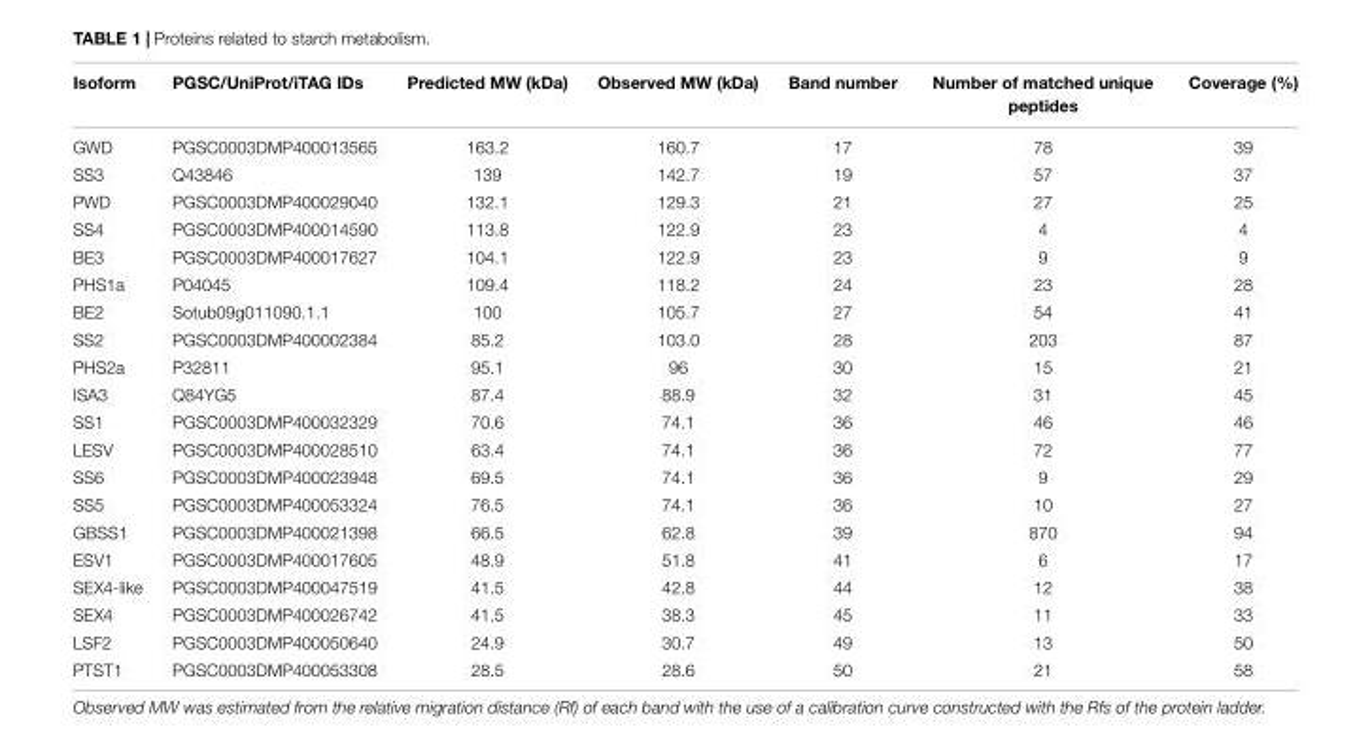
<table><thead><tr><td>Isoform</td><td>PGSC/UniProt/iTAG IDs</td><td>Predicted MW (kDa)</td><td>Observed MW (kDa)</td><td>Band number</td><td>Number of matched unique peptides</td><td>Coverage (%)</td></tr></thead><tbody><tr><td>GWD</td><td>PGSC0003DMP400013565</td><td>163.2</td><td>160.7</td><td>17</td><td>78</td><td>39</td></tr><tr><td>SS3</td><td>Q43846</td><td>139</td><td>142.7</td><td>19</td><td>57</td><td>37</td></tr><tr><td>PWD</td><td>PGSC0003DMP400029040</td><td>132.1</td><td>129.3</td><td>21</td><td>27</td><td>25</td></tr><tr><td>SS4</td><td>PGSC0003DMP400014590</td><td>113.8</td><td>122.9</td><td>23</td><td>4</td><td>4</td></tr><tr><td>BE3</td><td>PGSC0003DMP400017627</td><td>104.1</td><td>122.9</td><td>23</td><td>9</td><td>9</td></tr><tr><td>PHS1a</td><td>P04045</td><td>109.4</td><td>118.2</td><td>24</td><td>23</td><td>28</td></tr><tr><td>BE2</td><td>Sotub09g011090.1.1</td><td>100</td><td>105.7</td><td>27</td><td>54</td><td>41</td></tr><tr><td>SS2</td><td>PGSC0003DMP400002384</td><td>85.2</td><td>103.0</td><td>28</td><td>203</td><td>87</td></tr><tr><td>PHS2a</td><td>P32811</td><td>95.1</td><td>96</td><td>30</td><td>15</td><td>21</td></tr><tr><td>ISA3</td><td>Q84YG5</td><td>87.4</td><td>88.9</td><td>32</td><td>31</td><td>45</td></tr><tr><td>SS1</td><td>PGSC0003DMP400032329</td><td>70.6</td><td>74.1</td><td>36</td><td>46</td><td>46</td></tr><tr><td>LESV</td><td>PGSC0003DMP400028510</td><td>63.4</td><td>74.1</td><td>36</td><td>72</td><td>77</td></tr><tr><td>SS6</td><td>PGSC0003DMP400023948</td><td>69.5</td><td>74.1</td><td>36</td><td>9</td><td>29</td></tr><tr><td>SS5</td><td>PGSC0003DMP400053324</td><td>76.5</td><td>74.1</td><td>36</td><td>10</td><td>27</td></tr><tr><td>GBSS1</td><td>PGSC0003DMP400021398</td><td>66.5</td><td>62.8</td><td>39</td><td>870</td><td>94</td></tr><tr><td>ESV1</td><td>PGSC0003DMP400017605</td><td>48.9</td><td>51.8</td><td>41</td><td>6</td><td>17</td></tr><tr><td>SEX4-like</td><td>PGSC0003DMP400047519</td><td>41.5</td><td>42.8</td><td>44</td><td>12</td><td>38</td></tr><tr><td>SEX4</td><td>PGSC0003DMP400026742</td><td>41.5</td><td>38.3</td><td>45</td><td>11</td><td>33</td></tr><tr><td>LSF2</td><td>PGSC0003DMP400050640</td><td>24.9</td><td>30.7</td><td>49</td><td>13</td><td>50</td></tr><tr><td>PTST1</td><td>PGSC0003DMP400053308</td><td>28.5</td><td>28.6</td><td>50</td><td>21</td><td>58</td></tr></tbody></table>